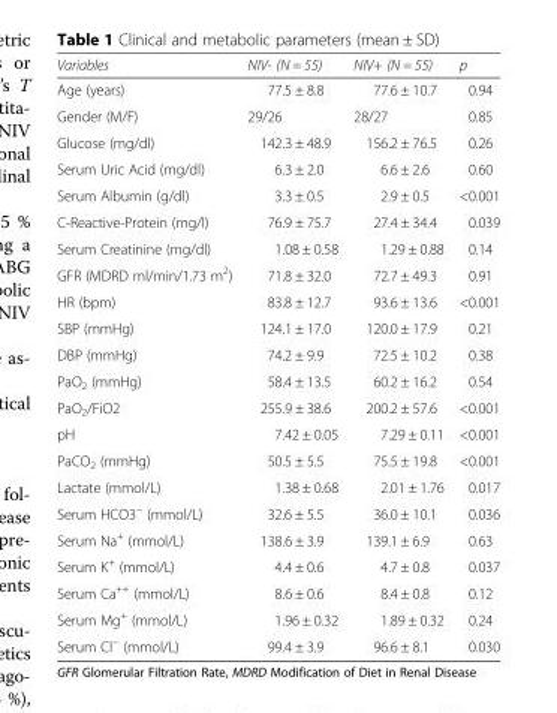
<table><thead><tr><td>Variables</td><td>NIV- (N = 55)</td><td>NIV+ (N = 55)</td><td>p</td></tr></thead><tbody><tr><td>Age (years)</td><td>77.5 ± 8.8</td><td>77.6 ± 10.7</td><td>0.94</td></tr><tr><td>Gender (M/F)</td><td>29/26</td><td>28/27</td><td>0.85</td></tr><tr><td>Glucose (mg/dl)</td><td>142.3 ± 48.9</td><td>156.2 ± 76.5</td><td>0.26</td></tr><tr><td>Serum Uric Acid (mg/dl)</td><td>6.3 ± 2.0</td><td>6.6 ± 2.6</td><td>0.60</td></tr><tr><td>Serum Albumin (g/dl)</td><td>3.3 ± 0.5</td><td>2.9 ± 0.5</td><td>&lt;0.001</td></tr><tr><td>C-Reactive-Protein (mg/l)</td><td>76.9 ± 75.7</td><td>27.4 ± 34.4</td><td>0.039</td></tr><tr><td>Serum Creatinine (mg/dl)</td><td>1.08 ± 0.58</td><td>1.29 ± 0.88</td><td>0.14</td></tr><tr><td>GFR (MDRD ml/min/1.73 m<sup>2</sup>)</td><td>71.8 ± 32.0</td><td>72.7 ± 49.3</td><td>0.91</td></tr><tr><td>HR (bpm)</td><td>83.8 ± 12.7</td><td>93.6 ± 13.6</td><td>&lt;0.001</td></tr><tr><td>SBP (mmHg)</td><td>124.1 ± 17.0</td><td>120.0 ± 17.9</td><td>0.21</td></tr><tr><td>DBP (mmHg)</td><td>74.2 ± 9.9</td><td>72.5 ± 10.2</td><td>0.38</td></tr><tr><td>PaO<sub>2</sub> (mmHg)</td><td>58.4 ± 13.5</td><td>60.2 ± 16.2</td><td>0.54</td></tr><tr><td>PaO<sub>2</sub>/FiO2</td><td>255.9 ± 38.6</td><td>200.2 ± 57.6</td><td>&lt;0.001</td></tr><tr><td>pH</td><td>7.42 ± 0.05</td><td>7.29 ± 0.11</td><td>&lt;0.001</td></tr><tr><td>PaCO<sub>2</sub> (mmHg)</td><td>50.5 ± 5.5</td><td>75.5 ± 19.8</td><td>&lt;0.001</td></tr><tr><td>Lactate (mmol/L)</td><td>1.38 ± 0.68</td><td>2.01 ± 1.76</td><td>0.017</td></tr><tr><td>Serum HCO3<sup>−</sup> (mmol/L)</td><td>32.6 ± 5.5</td><td>36.0 ± 10.1</td><td>0.036</td></tr><tr><td>Serum Na<sup>+</sup> (mmol/L)</td><td>138.6 ± 3.9</td><td>139.1 ± 6.9</td><td>0.63</td></tr><tr><td>Serum K<sup>+</sup> (mmol/L)</td><td>4.4 ± 0.6</td><td>4.7 ± 0.8</td><td>0.037</td></tr><tr><td>Serum Ca<sup>++</sup> (mmol/L)</td><td>8.6 ± 0.6</td><td>8.4 ± 0.8</td><td>0.12</td></tr><tr><td>Serum Mg<sup>+</sup> (mmol/L)</td><td>1.96 ± 0.32</td><td>1.89 ± 0.32</td><td>0.24</td></tr><tr><td>Serum Cl<sup>−</sup> (mmol/L)</td><td>99.4 ± 3.9</td><td>96.6 ± 8.1</td><td>0.030</td></tr></tbody></table>